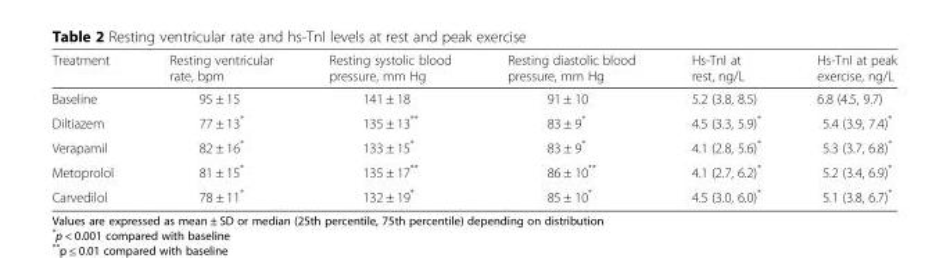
<table><thead><tr><td>Treatment</td><td>Resting ventricular rate, bpm</td><td>Resting systolic blood pressure, mm Hg</td><td>Resting diastolic blood pressure, mm Hg</td><td>Hs-TnI at rest, ng/L</td><td>Hs-TnI at peak exercise, ng/L</td></tr></thead><tbody><tr><td>Baseline</td><td>95 ± 15</td><td>141 ± 18</td><td>91 ± 10</td><td>5.2 (3.8, 8.5)</td><td>6.8 (4.5, 9.7)</td></tr><tr><td>Diltiazem</td><td>77 ± 13*</td><td>135 ± 13**</td><td>83 ± 9*</td><td>4.5 (3.3, 5.9)*</td><td>5.4 (3.9, 7.4)*</td></tr><tr><td>Verapamil</td><td>82 ± 16*</td><td>133 ± 15*</td><td>83 ± 9*</td><td>4.1 (2.8, 5.6)*</td><td>5.3 (3.7, 6.8)*</td></tr><tr><td>Metoprolol</td><td>81 ± 15*</td><td>135 ± 17**</td><td>86 ± 10**</td><td>4.1 (2.7, 6.2)*</td><td>5.2 (3.4, 6.9)*</td></tr><tr><td>Carvedilol</td><td>78 ± 11*</td><td>132 ± 19*</td><td>85 ± 10*</td><td>4.5 (3.0, 6.0)*</td><td>5.1 (3.8, 6.7)*</td></tr></tbody></table>